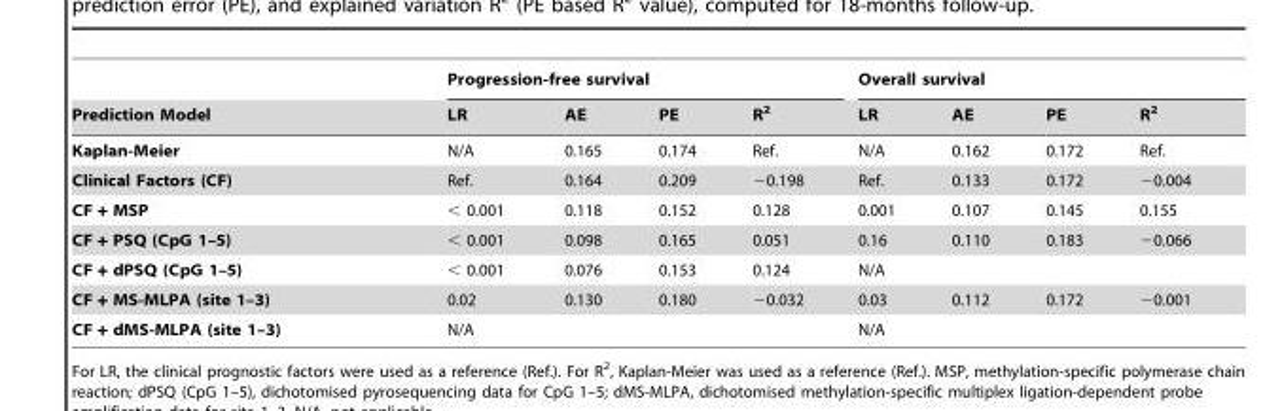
<table><thead><tr><td rowspan="2">Prediction Model</td><td colspan="4">Progression-free survival</td><td colspan="4">Overall survival</td></tr><tr><td>LR</td><td>AE</td><td>PE</td><td>R<sup>2</sup></td><td>LR</td><td>AE</td><td>PE</td><td>R<sup>2</sup></td></tr></thead><tbody><tr><td>Kaplan-Meier</td><td>N/A</td><td>0.165</td><td>0.174</td><td>Ref.</td><td>N/A</td><td>0.162</td><td>0.172</td><td>Ref.</td></tr><tr><td>Clinical Factors (CF)</td><td>Ref.</td><td>0.164</td><td>0.209</td><td>−0.198</td><td>Ref.</td><td>0.133</td><td>0.172</td><td>−0.004</td></tr><tr><td>CF + MSP</td><td>&lt; 0.001</td><td>0.118</td><td>0.152</td><td>0.128</td><td>0.001</td><td>0.107</td><td>0.145</td><td>0.155</td></tr><tr><td>CF + PSQ (CpG 1–5)</td><td>&lt; 0.001</td><td>0.098</td><td>0.165</td><td>0.051</td><td>0.16</td><td>0.110</td><td>0.183</td><td>−0.066</td></tr><tr><td>CF + dPSQ (CpG 1–5)</td><td>&lt; 0.001</td><td>0.076</td><td>0.153</td><td>0.124</td><td colspan="4">N/A</td></tr><tr><td>CF + MS-MLPA (site 1–3)</td><td>0.02</td><td>0.130</td><td>0.180</td><td>−0.032</td><td>0.03</td><td>0.112</td><td>0.172</td><td>−0.001</td></tr><tr><td>CF + dMS-MLPA (site 1–3)</td><td colspan="4">N/A</td><td colspan="4">N/A</td></tr></tbody></table>